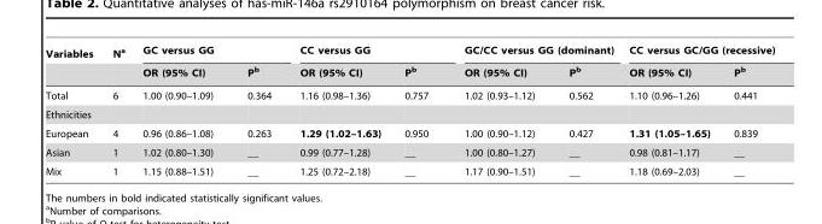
<table><thead><tr><td rowspan="2">Variables</td><td rowspan="2">N<sup>a</sup></td><td colspan="2">GC versus GG</td><td colspan="2">CC versus GG</td><td colspan="2">GC/CC versus GG (dominant)</td><td colspan="2">CC versus GC/GG (recessive)</td></tr><tr><td>OR (95% CI)</td><td>P<sup>b</sup></td><td>OR (95% CI)</td><td>P<sup>b</sup></td><td>OR (95% CI)</td><td>P<sup>b</sup></td><td>OR (95% CI)</td><td>P<sup>b</sup></td></tr></thead><tbody><tr><td>Total</td><td>6</td><td>1.00 (0.90–1.09)</td><td>0.364</td><td>1.16 (0.98–1.36)</td><td>0.757</td><td>1.02 (0.93–1.12)</td><td>0.562</td><td>1.10 (0.96–1.26)</td><td>0.441</td></tr><tr><td colspan="10">Ethnicities</td></tr><tr><td>European</td><td>4</td><td>0.96 (0.86–1.08)</td><td>0.263</td><td>1.29 (1.02–1.63)</td><td>0.950</td><td>1.00 (0.90–1.12)</td><td>0.427</td><td>1.31 (1.05–1.65)</td><td>0.839</td></tr><tr><td>Asian</td><td>1</td><td>1.02 (0.80–1.30)</td><td>__</td><td>0.99 (0.77–1.28)</td><td>__</td><td>1.00 (0.80–1.27)</td><td>__</td><td>0.98 (0.81–1.17)</td><td>__</td></tr><tr><td>Mix</td><td>1</td><td>1.15 (0.88–1.51)</td><td>__</td><td>1.25 (0.72–2.18)</td><td>__</td><td>1.17 (0.90–1.51)</td><td>__</td><td>1.18 (0.69–2.03)</td><td>__</td></tr></tbody></table>